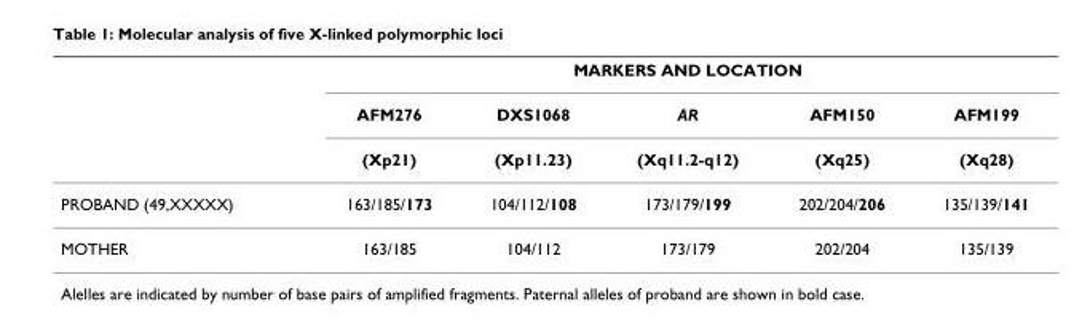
<table><thead><tr><td rowspan="3"></td><td colspan="5">MARKERS AND LOCATION</td></tr><tr><td rowspan="2">AFM276 (Xp21)</td><td rowspan="2">DXS1068 (Xp11.23)</td><td rowspan="2">AR (Xq11.2-q12)</td><td rowspan="2">AFM150 (Xq25)</td><td rowspan="2">AFM199 (Xq28)</td></tr><tr></tr></thead><tbody><tr><td>PROBAND (49,XXXXX)</td><td>163/185/173</td><td>104/112/108</td><td>173/179/199</td><td>202/204/206</td><td>135/139/141</td></tr><tr><td>MOTHER</td><td>163/185</td><td>104/112</td><td>173/179</td><td>202/204</td><td>135/139</td></tr></tbody></table>